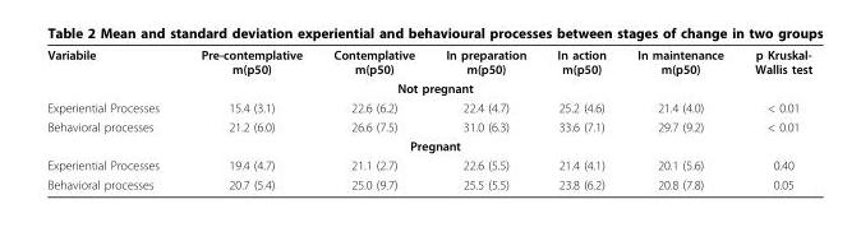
<table><tbody><tr><td>Variabile</td><td>Pre-contemplative m(p50)</td><td>Contemplative m(p50)</td><td>In preparation m(p50)</td><td>In action m(p50)</td><td>In maintenance m(p50)</td><td>p Kruskal- Wallis test</td></tr><tr><td colspan="7">Not pregnant</td></tr><tr><td>Experiential Processes</td><td>15.4 (3.1)</td><td>22.6 (6.2)</td><td>22.4 (4.7)</td><td>25.2 (4.6)</td><td>21.4 (4.0)</td><td>&lt; 0.01</td></tr><tr><td>Behavioral processes</td><td>21.2 (6.0)</td><td>26.6 (7.5)</td><td>31.0 (6.3)</td><td>33.6 (7.1)</td><td>29.7 (9.2)</td><td>&lt; 0.01</td></tr><tr><td colspan="7">Pregnant</td></tr><tr><td>Experiential Processes</td><td>19.4 (4.7)</td><td>21.1 (2.7)</td><td>22.6 (5.5)</td><td>21.4 (4.1)</td><td>20.1 (5.6)</td><td>0.40</td></tr><tr><td>Behavioral processes</td><td>20.7 (5.4)</td><td>25.0 (9.7)</td><td>25.5 (5.5)</td><td>23.8 (6.2)</td><td>20.8 (7.8)</td><td>0.05</td></tr></tbody></table>